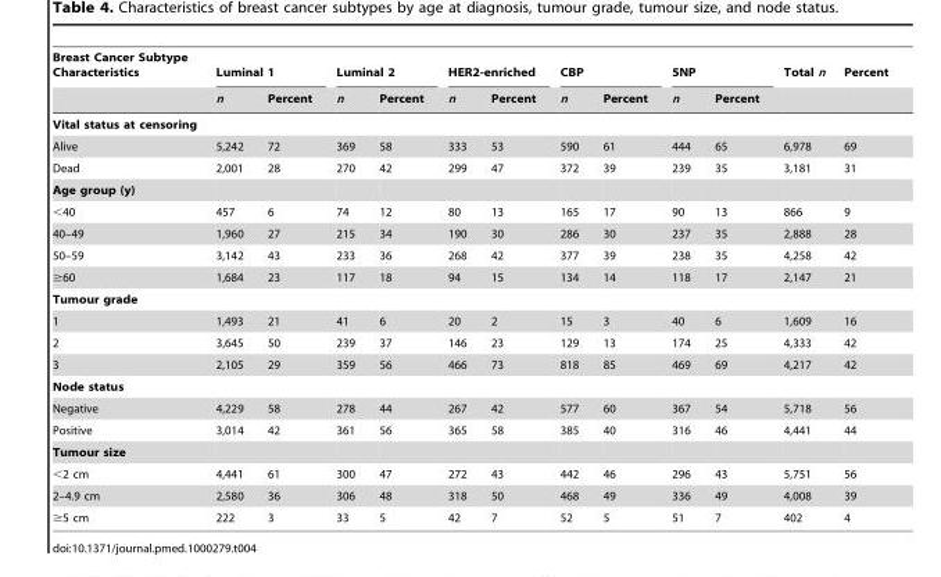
<table><thead><tr><td rowspan="2">Breast Cancer Subtype Characteristics</td><td colspan="2">Luminal 1</td><td colspan="2">Luminal 2</td><td colspan="2">HER2-enriched</td><td colspan="2">CBP</td><td colspan="2">5NP</td><td rowspan="2">Total n</td><td rowspan="2">Percent</td></tr><tr><td>n</td><td>Percent</td><td>n</td><td>Percent</td><td>n</td><td>Percent</td><td>n</td><td>Percent</td><td>n</td><td>Percent</td></tr></thead><tbody><tr><td colspan="13">Vital status at censoring</td></tr><tr><td>Alive</td><td>5,242</td><td>72</td><td>369</td><td>58</td><td>333</td><td>53</td><td>590</td><td>61</td><td>444</td><td>65</td><td>6,978</td><td>69</td></tr><tr><td>Dead</td><td>2,001</td><td>28</td><td>270</td><td>42</td><td>299</td><td>47</td><td>372</td><td>39</td><td>239</td><td>35</td><td>3,181</td><td>31</td></tr><tr><td colspan="13">Age group (y)</td></tr><tr><td>&lt;40</td><td>457</td><td>6</td><td>74</td><td>12</td><td>80</td><td>13</td><td>165</td><td>17</td><td>90</td><td>13</td><td>866</td><td>9</td></tr><tr><td>40–49</td><td>1,960</td><td>27</td><td>215</td><td>34</td><td>190</td><td>30</td><td>286</td><td>30</td><td>237</td><td>35</td><td>2,888</td><td>28</td></tr><tr><td>50–59</td><td>3,142</td><td>43</td><td>233</td><td>36</td><td>268</td><td>42</td><td>377</td><td>39</td><td>238</td><td>35</td><td>4,258</td><td>42</td></tr><tr><td>≥60</td><td>1,684</td><td>23</td><td>117</td><td>18</td><td>94</td><td>15</td><td>134</td><td>14</td><td>118</td><td>17</td><td>2,147</td><td>21</td></tr><tr><td colspan="13">Tumour grade</td></tr><tr><td>1</td><td>1,493</td><td>21</td><td>41</td><td>6</td><td>20</td><td>2</td><td>15</td><td>3</td><td>40</td><td>6</td><td>1,609</td><td>16</td></tr><tr><td>2</td><td>3,645</td><td>50</td><td>239</td><td>37</td><td>146</td><td>23</td><td>129</td><td>13</td><td>174</td><td>25</td><td>4,333</td><td>42</td></tr><tr><td>3</td><td>2,105</td><td>29</td><td>359</td><td>56</td><td>466</td><td>73</td><td>818</td><td>85</td><td>469</td><td>69</td><td>4,217</td><td>42</td></tr><tr><td colspan="13">Node status</td></tr><tr><td>Negative</td><td>4,229</td><td>58</td><td>278</td><td>44</td><td>267</td><td>42</td><td>577</td><td>60</td><td>367</td><td>54</td><td>5,718</td><td>56</td></tr><tr><td>Positive</td><td>3,014</td><td>42</td><td>361</td><td>56</td><td>365</td><td>58</td><td>385</td><td>40</td><td>316</td><td>46</td><td>4,441</td><td>44</td></tr><tr><td colspan="13">Tumour size</td></tr><tr><td>&lt;2 cm</td><td>4,441</td><td>61</td><td>300</td><td>47</td><td>272</td><td>43</td><td>442</td><td>46</td><td>296</td><td>43</td><td>5,751</td><td>56</td></tr><tr><td>2–4.9 cm</td><td>2,580</td><td>36</td><td>306</td><td>48</td><td>318</td><td>50</td><td>468</td><td>49</td><td>336</td><td>49</td><td>4,008</td><td>39</td></tr><tr><td>≥5 cm</td><td>222</td><td>3</td><td>33</td><td>5</td><td>42</td><td>7</td><td>52</td><td>5</td><td>51</td><td>7</td><td>402</td><td>4</td></tr></tbody></table>